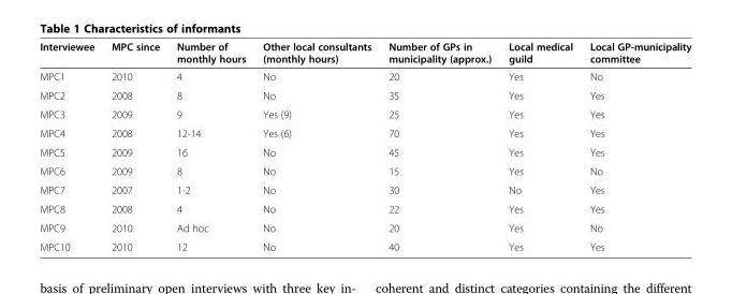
<table><thead><tr><td>Interviewee</td><td>MPC since</td><td>Number of monthly hours</td><td>Other local consultants (monthly hours)</td><td>Number of GPs in municipality (approx.)</td><td>Local medical guild</td><td>Local GP-municipality committee</td></tr></thead><tbody><tr><td>MPC1</td><td>2010</td><td>4</td><td>No</td><td>20</td><td>Yes</td><td>No</td></tr><tr><td>MPC2</td><td>2008</td><td>8</td><td>No</td><td>35</td><td>Yes</td><td>Yes</td></tr><tr><td>MPC3</td><td>2009</td><td>9</td><td>Yes (9)</td><td>25</td><td>Yes</td><td>Yes</td></tr><tr><td>MPC4</td><td>2008</td><td>12-14</td><td>Yes (6)</td><td>70</td><td>Yes</td><td>Yes</td></tr><tr><td>MPC5</td><td>2009</td><td>16</td><td>No</td><td>45</td><td>Yes</td><td>Yes</td></tr><tr><td>MPC6</td><td>2009</td><td>8</td><td>No</td><td>15</td><td>Yes</td><td>No</td></tr><tr><td>MPC7</td><td>2007</td><td>1-2</td><td>No</td><td>30</td><td>No</td><td>Yes</td></tr><tr><td>MPC8</td><td>2008</td><td>4</td><td>No</td><td>22</td><td>Yes</td><td>Yes</td></tr><tr><td>MPC9</td><td>2010</td><td>Ad hoc</td><td>No</td><td>20</td><td>Yes</td><td>No</td></tr><tr><td>MPC10</td><td>2010</td><td>12</td><td>No</td><td>40</td><td>Yes</td><td>Yes</td></tr></tbody></table>